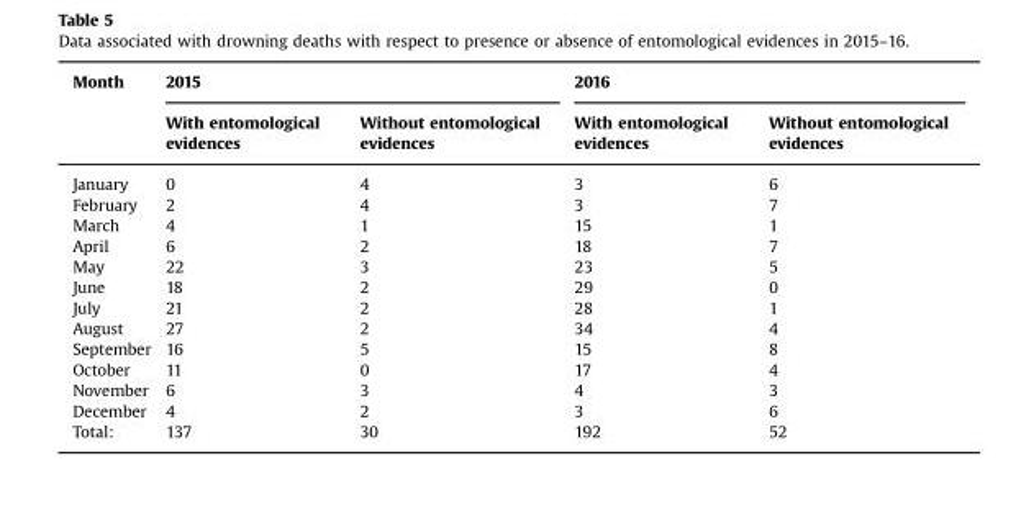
<table><thead><tr><td rowspan="2">Month</td><td colspan="2">2015</td><td colspan="2">2016</td></tr><tr><td>With entomological evidences</td><td>Without entomological evidences</td><td>With entomological evidences</td><td>Without entomological evidences</td></tr></thead><tbody><tr><td>January</td><td>0</td><td>4</td><td>3</td><td>6</td></tr><tr><td>February</td><td>2</td><td>4</td><td>3</td><td>7</td></tr><tr><td>March</td><td>4</td><td>1</td><td>15</td><td>1</td></tr><tr><td>April</td><td>6</td><td>2</td><td>18</td><td>7</td></tr><tr><td>May</td><td>22</td><td>3</td><td>23</td><td>5</td></tr><tr><td>June</td><td>18</td><td>2</td><td>29</td><td>0</td></tr><tr><td>July</td><td>21</td><td>2</td><td>28</td><td>1</td></tr><tr><td>August</td><td>27</td><td>2</td><td>34</td><td>4</td></tr><tr><td>September</td><td>16</td><td>5</td><td>15</td><td>8</td></tr><tr><td>October</td><td>11</td><td>0</td><td>17</td><td>4</td></tr><tr><td>November</td><td>6</td><td>3</td><td>4</td><td>3</td></tr><tr><td>December</td><td>4</td><td>2</td><td>3</td><td>6</td></tr><tr><td>Total:</td><td>137</td><td>30</td><td>192</td><td>52</td></tr></tbody></table>